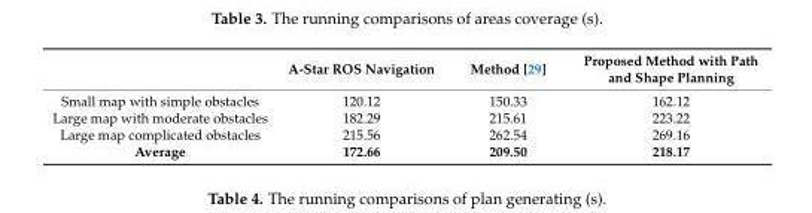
<table><thead><tr><td></td><td>A-Star ROS Navigation</td><td>Method [29]</td><td>Proposed Method with Path and Shape Planning</td></tr></thead><tbody><tr><td>Small map with simple obstacles</td><td>120.12</td><td>150.33</td><td>162.12</td></tr><tr><td>Large map with moderate obstacles</td><td>182.29</td><td>215.61</td><td>223.22</td></tr><tr><td>Large map complicated obstacles</td><td>215.56</td><td>262.54</td><td>269.16</td></tr><tr><td>Average</td><td>172.66</td><td>209.50</td><td>218.17</td></tr></tbody></table>